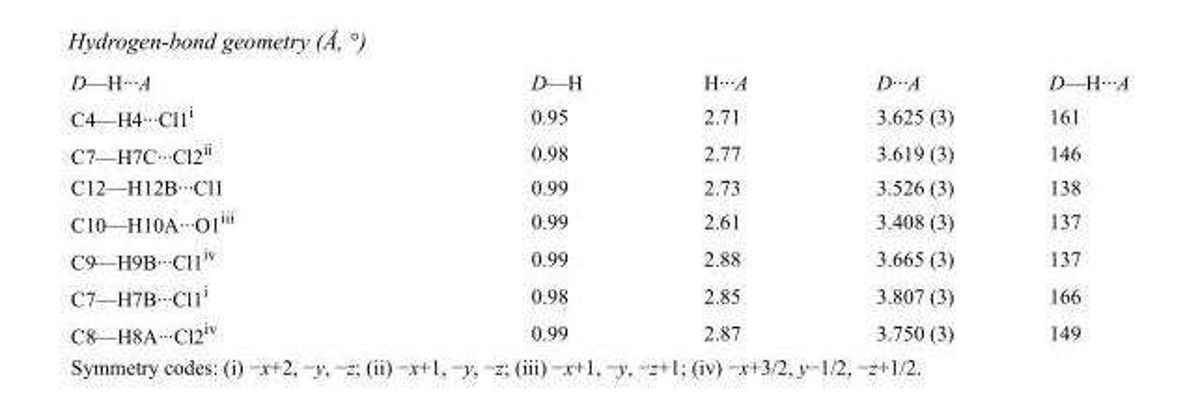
<table><tbody><tr><td>D—H···A</td><td>D—H</td><td>H···A</td><td>D···A</td><td>D—H···A</td></tr><tr><td>C4—H4···Cl1<sup>i</sup></td><td>0.95</td><td>2.71</td><td>3.625 (3)</td><td>161</td></tr><tr><td>C7—H7C···Cl2<sup>ii</sup></td><td>0.98</td><td>2.77</td><td>3.619 (3)</td><td>146</td></tr><tr><td>C12—H12B···Cl1</td><td>0.99</td><td>2.73</td><td>3.526 (3)</td><td>138</td></tr><tr><td>C10—H10A···O1<sup>iii</sup></td><td>0.99</td><td>2.61</td><td>3.408 (3)</td><td>137</td></tr><tr><td>C9—H9B···Cl1<sup>iv</sup></td><td>0.99</td><td>2.88</td><td>3.665 (3)</td><td>137</td></tr><tr><td>C7—H7B···Cl1<sup>i</sup></td><td>0.98</td><td>2.85</td><td>3.807 (3)</td><td>166</td></tr><tr><td>C8—H8A···Cl2<sup>iv</sup></td><td>0.99</td><td>2.87</td><td>3.750 (3)</td><td>149</td></tr></tbody></table>